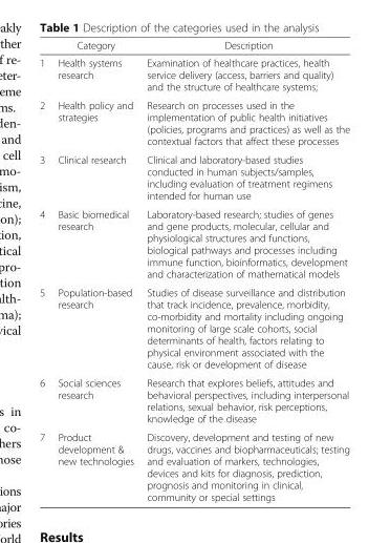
<table><thead><tr><td></td><td>Category</td><td>Description</td></tr></thead><tbody><tr><td>1</td><td>Health systems research</td><td>Examination of healthcare practices, health service delivery (access, barriers and quality) and the structure of healthcare systems;</td></tr><tr><td>2</td><td>Health policy and strategies</td><td>Research on processes used in the implementation of public health initiatives (policies, programs and practices) as well as the contextual factors that affect these processes</td></tr><tr><td>3</td><td>Clinical research</td><td>Clinical and laboratory-based studies conducted in human subjects/samples, including evaluation of treatment regimens intended for human use</td></tr><tr><td>4</td><td>Basic biomedical research</td><td>Laboratory-based research; studies of genes and gene products, molecular, cellular and physiological structures and functions, biological pathways and processes including immune function, bioinformatics, development and characterization of mathematical models</td></tr><tr><td>5</td><td>Population-based research</td><td>Studies of disease surveillance and distribution that track incidence, prevalence, morbidity, co-morbidity and mortality including ongoing monitoring of large scale cohorts, social determinants of health, factors relating to physical environment associated with the cause, risk or development of disease</td></tr><tr><td>6</td><td>Social sciences research</td><td>Research that explores beliefs, attitudes and behavioral perspectives, including interpersonal relations, sexual behavior, risk perceptions, knowledge of the disease</td></tr><tr><td>7</td><td>Product development &amp; new technologies</td><td>Discovery, development and testing of new drugs, vaccines and biopharmaceuticals; testing and evaluation of markers, technologies, devices and kits for diagnosis, prediction, prognosis and monitoring in clinical, community or special settings</td></tr></tbody></table>